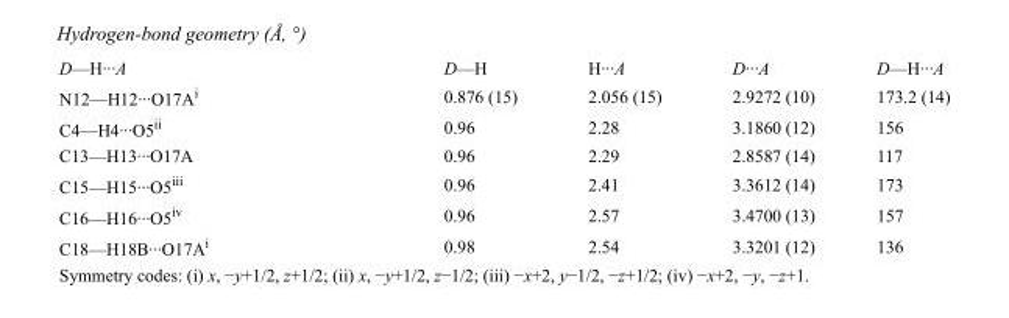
<table><tbody><tr><td>D—H···A</td><td>D—H</td><td>H···A</td><td>D···A</td><td>D—H···A</td></tr><tr><td>N12—H12···O17A<sup>i</sup></td><td>0.876 (15)</td><td>2.056 (15)</td><td>2.9272 (10)</td><td>173.2 (14)</td></tr><tr><td>C4—H4···O5<sup>ii</sup></td><td>0.96</td><td>2.28</td><td>3.1860 (12)</td><td>156</td></tr><tr><td>C13—H13···O17A</td><td>0.96</td><td>2.29</td><td>2.8587 (14)</td><td>117</td></tr><tr><td>C15—H15···O5<sup>iii</sup></td><td>0.96</td><td>2.41</td><td>3.3612 (14)</td><td>173</td></tr><tr><td>C16—H16···O5<sup>iv</sup></td><td>0.96</td><td>2.57</td><td>3.4700 (13)</td><td>157</td></tr><tr><td>C18—H18B···O17A<sup>i</sup></td><td>0.98</td><td>2.54</td><td>3.3201 (12)</td><td>136</td></tr></tbody></table>